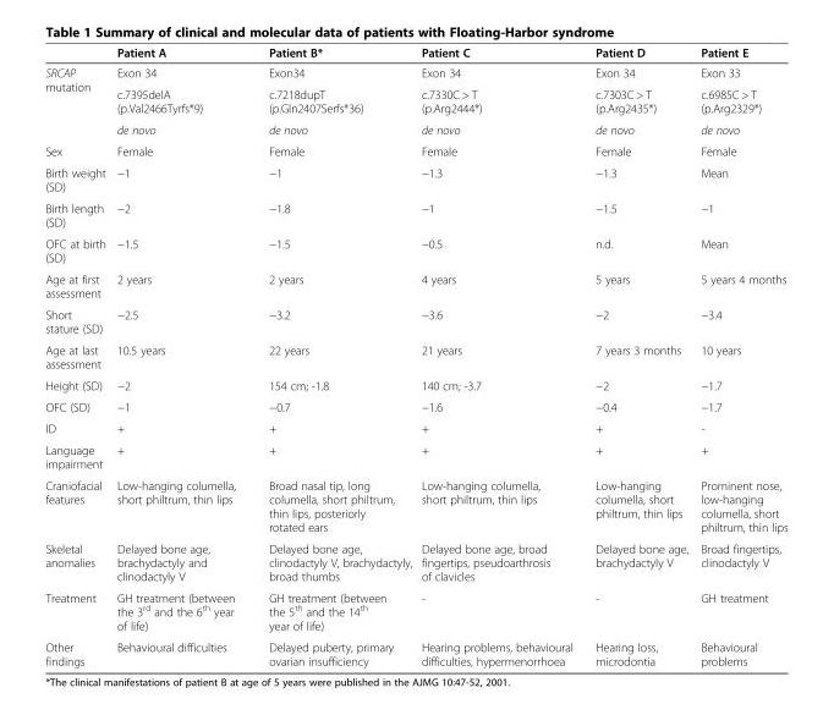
<table><thead><tr><td></td><td>Patient A</td><td>Patient B*</td><td>Patient C</td><td>Patient D</td><td>Patient E</td></tr></thead><tbody><tr><td rowspan="3">SRCAP mutation</td><td>Exon 34</td><td>Exon34</td><td>Exon 34</td><td>Exon 34</td><td>Exon 33</td></tr><tr><td>c.7395delA (p.Val2466Tyrfs*9)</td><td>c.7218dupT (p.Gln2407Serfs*36)</td><td>c.7330C &gt; T (p.Arg2444*)</td><td>c.7303C &gt; T (p.Arg2435*)</td><td>c.6985C &gt; T (p.Arg2329*)</td></tr><tr><td>de novo</td><td>de novo</td><td>de novo</td><td>de novo</td><td>de novo</td></tr><tr><td>Sex</td><td>Female</td><td>Female</td><td>Female</td><td>Female</td><td>Female</td></tr><tr><td>Birth weight (SD)</td><td>−1</td><td>−1</td><td>−1.3</td><td>−1.3</td><td>Mean</td></tr><tr><td>Birth length (SD)</td><td>−2</td><td>−1.8</td><td>−1</td><td>−1.5</td><td>−1</td></tr><tr><td>OFC at birth (SD)</td><td>−1.5</td><td>−1.5</td><td>−0.5</td><td>n.d.</td><td>Mean</td></tr><tr><td>Age at first assessment</td><td>2 years</td><td>2 years</td><td>4 years</td><td>5 years</td><td>5 years 4 months</td></tr><tr><td>Short stature (SD)</td><td>−2.5</td><td>−3.2</td><td>−3.6</td><td>−2</td><td>−3.4</td></tr><tr><td>Age at last assessment</td><td>10.5 years</td><td>22 years</td><td>21 years</td><td>7 years 3 months</td><td>10 years</td></tr><tr><td>Height (SD)</td><td>−2</td><td>154 cm; -1.8</td><td>140 cm; -3.7</td><td>−2</td><td>−1.7</td></tr><tr><td>OFC (SD)</td><td>−1</td><td>−0.7</td><td>−1.6</td><td>−0.4</td><td>−1.7</td></tr><tr><td>ID</td><td>+</td><td>+</td><td>+</td><td>+</td><td>-</td></tr><tr><td>Language impairment</td><td>+</td><td>+</td><td>+</td><td>+</td><td>+</td></tr><tr><td>Craniofacial features</td><td>Low-hanging columella, short philtrum, thin lips</td><td>Broad nasal tip, long columella, short philtrum, thin lips, posteriorly rotated ears</td><td>Low-hanging columella, short philtrum, thin lips</td><td>Low-hanging columella, short philtrum, thin lips</td><td>Prominent nose, low-hanging columella, short philtrum, thin lips</td></tr><tr><td>Skeletal anomalies</td><td>Delayed bone age, brachydactyly and clinodactyly V</td><td>Delayed bone age, clinodactyly V, brachydactyly, broad thumbs</td><td>Delayed bone age, broad fingertips, pseudoarthrosis of clavicles</td><td>Delayed bone age, brachydactyly V</td><td>Broad fingertips, clinodactyly V</td></tr><tr><td>Treatment</td><td>GH treatment (between the 3<sup>rd</sup> and the 6<sup>th</sup> year of life)</td><td>GH treatment (between the 5<sup>th</sup> and the 14<sup>th</sup> year of life)</td><td>-</td><td>-</td><td>GH treatment</td></tr><tr><td>Other findings</td><td>Behavioural difficulties</td><td>Delayed puberty, primary ovarian insufficiency</td><td>Hearing problems, behavioural difficulties, hypermenorrhoea</td><td>Hearing loss, microdontia</td><td>Behavioural problems</td></tr></tbody></table>